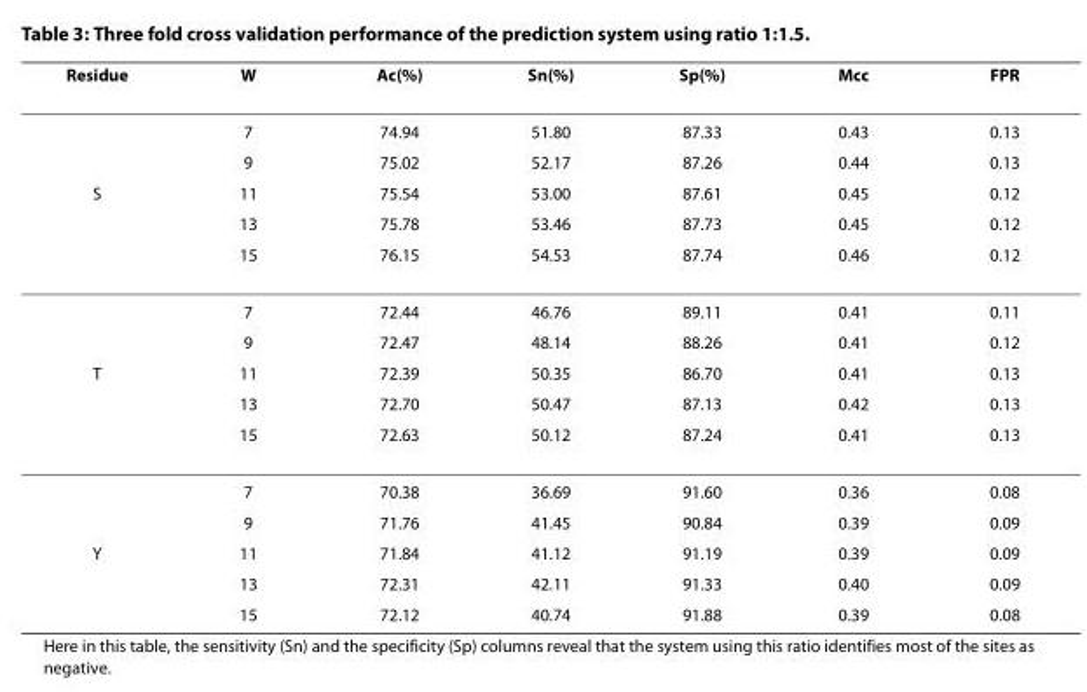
<table><thead><tr><td>Residue</td><td>W</td><td>Ac(%)</td><td>Sn(%)</td><td>Sp(%)</td><td>Mcc</td><td>FPR</td></tr></thead><tbody><tr><td></td><td>7</td><td>74.94</td><td>51.80</td><td>87.33</td><td>0.43</td><td>0.13</td></tr><tr><td></td><td>9</td><td>75.02</td><td>52.17</td><td>87.26</td><td>0.44</td><td>0.13</td></tr><tr><td rowspan="5">S</td><td>11</td><td>75.54</td><td>53.00</td><td>87.61</td><td>0.45</td><td>0.12</td></tr><tr><td>13</td><td>75.78</td><td>53.46</td><td>87.73</td><td>0.45</td><td>0.12</td></tr><tr><td>15</td><td>76.15</td><td>54.53</td><td>87.74</td><td>0.46</td><td>0.12</td></tr><tr><td>7</td><td>72.44</td><td>46.76</td><td>89.11</td><td>0.41</td><td>0.11</td></tr><tr><td>9</td><td>72.47</td><td>48.14</td><td>88.26</td><td>0.41</td><td>0.12</td></tr><tr><td rowspan="5">T</td><td>11</td><td>72.39</td><td>50.35</td><td>86.70</td><td>0.41</td><td>0.13</td></tr><tr><td>13</td><td>72.70</td><td>50.47</td><td>87.13</td><td>0.42</td><td>0.13</td></tr><tr><td>15</td><td>72.63</td><td>50.12</td><td>87.24</td><td>0.41</td><td>0.13</td></tr><tr><td>7</td><td>70.38</td><td>36.69</td><td>91.60</td><td>0.36</td><td>0.08</td></tr><tr><td>9</td><td>71.76</td><td>41.45</td><td>90.84</td><td>0.39</td><td>0.09</td></tr><tr><td rowspan="3">Y</td><td>11</td><td>71.84</td><td>41.12</td><td>91.19</td><td>0.39</td><td>0.09</td></tr><tr><td>13</td><td>72.31</td><td>42.11</td><td>91.33</td><td>0.40</td><td>0.09</td></tr><tr><td>15</td><td>72.12</td><td>40.74</td><td>91.88</td><td>0.39</td><td>0.08</td></tr></tbody></table>